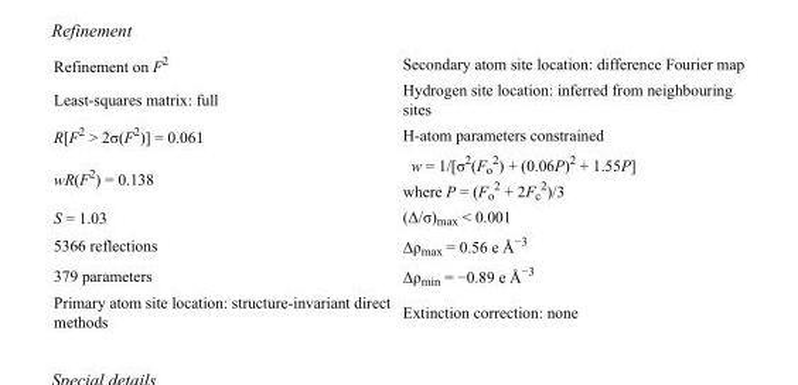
<table><tbody><tr><td>Refinement on F<sup>2</sup></td><td>Secondary atom site location: difference Fourier map</td></tr><tr><td>Least-squares matrix: full</td><td>Hydrogen site location: inferred from neighbouring sites</td></tr><tr><td>R[F<sup>2</sup> &gt; 2σ(F<sup>2</sup>)] = 0.061</td><td>H-atom parameters constrained</td></tr><tr><td>wR(F<sup>2</sup>) = 0.138</td><td>w = 1/[σ<sup>2</sup>(F<sub>o</sub> <sup>2</sup>) + (0.06P)<sup>2</sup> + 1.55P] where P = (F<sub>o</sub> <sup>2</sup> + 2F<sub>c</sub> <sup>2</sup>)/3</td></tr><tr><td>S = 1.03</td><td>(Δ/σ)<sub>max</sub> &lt; 0.001</td></tr><tr><td>5366 reflections</td><td>Δρ<sub>max</sub> = 0.56 e Å<sup>−3</sup></td></tr><tr><td>379 parameters</td><td>Δρ<sub>min</sub> = −0.89 e Å<sup>−3</sup></td></tr><tr><td>Primary atom site location: structure-invariant direct methods</td><td>Extinction correction: none</td></tr></tbody></table>